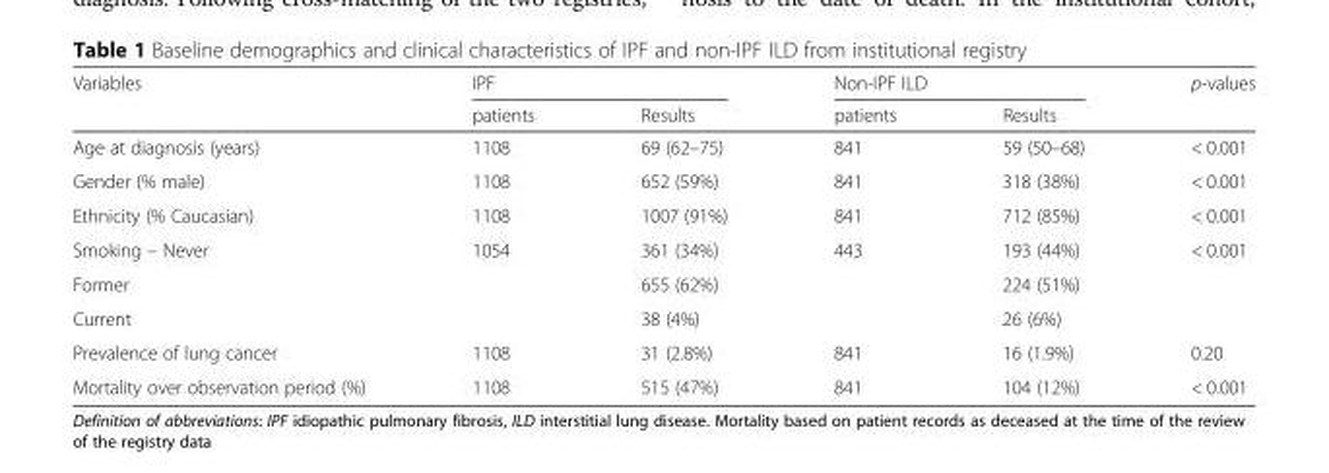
<table><thead><tr><td rowspan="2">Variables</td><td colspan="2">IPF</td><td colspan="2">Non-IPF ILD</td><td rowspan="2">p-values</td></tr><tr><td>patients</td><td>Results</td><td>patients</td><td>Results</td></tr></thead><tbody><tr><td>Age at diagnosis (years)</td><td>1108</td><td>69 (62–75)</td><td>841</td><td>59 (50–68)</td><td>&lt; 0.001</td></tr><tr><td>Gender (% male)</td><td>1108</td><td>652 (59%)</td><td>841</td><td>318 (38%)</td><td>&lt; 0.001</td></tr><tr><td>Ethnicity (% Caucasian)</td><td>1108</td><td>1007 (91%)</td><td>841</td><td>712 (85%)</td><td>&lt; 0.001</td></tr><tr><td>Smoking – Never</td><td rowspan="3">1054</td><td>361 (34%)</td><td rowspan="3">443</td><td>193 (44%)</td><td rowspan="3">&lt; 0.001</td></tr><tr><td>Former</td><td>655 (62%)</td><td>224 (51%)</td></tr><tr><td>Current</td><td>38 (4%)</td><td>26 (6%)</td></tr><tr><td>Prevalence of lung cancer</td><td>1108</td><td>31 (2.8%)</td><td>841</td><td>16 (1.9%)</td><td>0.20</td></tr><tr><td>Mortality over observation period (%)</td><td>1108</td><td>515 (47%)</td><td>841</td><td>104 (12%)</td><td>&lt; 0.001</td></tr></tbody></table>